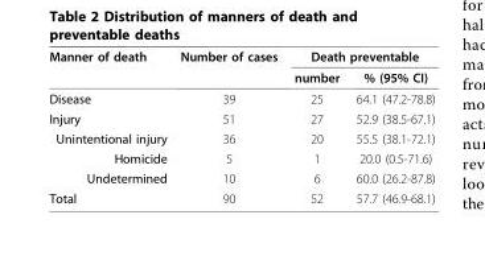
<table><thead><tr><td rowspan="2">Manner of death</td><td rowspan="2">Number of cases</td><td colspan="2">Death preventable</td></tr><tr><td>number</td><td>% (95% CI)</td></tr></thead><tbody><tr><td>Disease</td><td>39</td><td>25</td><td>64.1 (47.2-78.8)</td></tr><tr><td>Injury</td><td>51</td><td>27</td><td>52.9 (38.5-67.1)</td></tr><tr><td>Unintentional injury</td><td>36</td><td>20</td><td>55.5 (38.1-72.1)</td></tr><tr><td>Homicide</td><td>5</td><td>1</td><td>20.0 (0.5-71.6)</td></tr><tr><td>Undetermined</td><td>10</td><td>6</td><td>60.0 (26.2-87.8)</td></tr><tr><td>Total</td><td>90</td><td>52</td><td>57.7 (46.9-68.1)</td></tr></tbody></table>